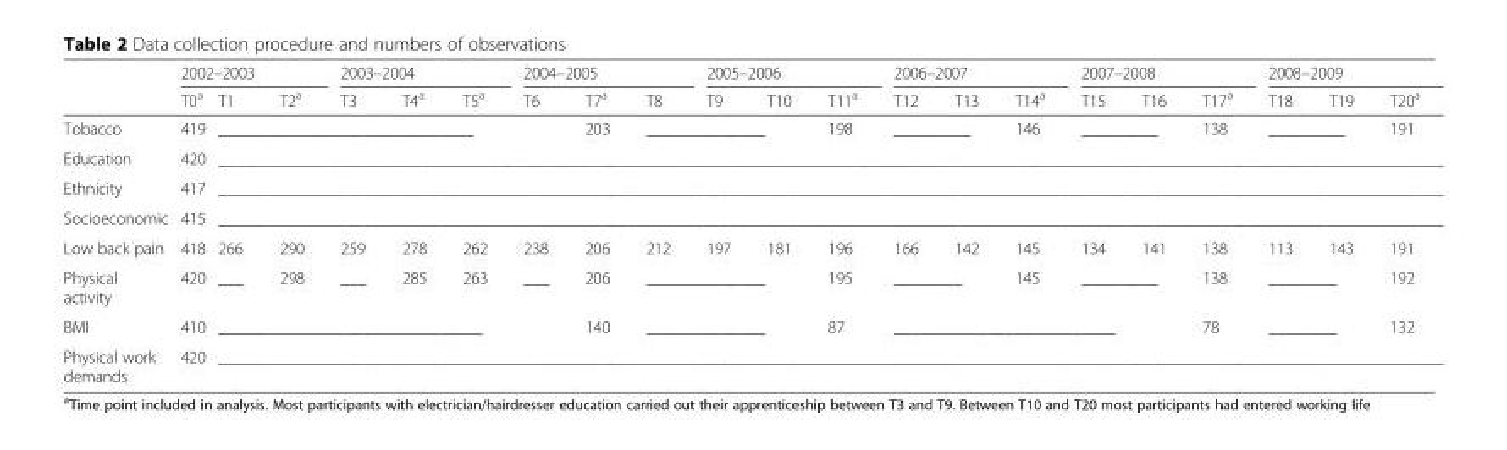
<table><thead><tr><td rowspan="2"></td><td colspan="3">2002–2003</td><td colspan="3">2003–2004</td><td colspan="3">2004–2005</td><td colspan="3">2005–2006</td><td colspan="3">2006–2007</td><td colspan="3">2007–2008</td><td colspan="3">2008–2009</td></tr><tr><td>T0<sup>a</sup></td><td>T1</td><td>T2<sup>a</sup></td><td>T3</td><td>T4<sup>a</sup></td><td>T5<sup>a</sup></td><td>T6</td><td>T7<sup>a</sup></td><td>T8</td><td>T9</td><td>T10</td><td>T11<sup>a</sup></td><td>T12</td><td>T13</td><td>T14<sup>a</sup></td><td>T15</td><td>T16</td><td>T17<sup>a</sup></td><td>T18</td><td>T19</td><td>T20<sup>a</sup></td></tr></thead><tbody><tr><td>Tobacco</td><td>419</td><td colspan="6">______________________________</td><td>203</td><td colspan="3">______________</td><td>198</td><td colspan="2">_________</td><td>146</td><td colspan="2">_________</td><td>138</td><td colspan="2">_________</td><td>191</td></tr><tr><td>Education</td><td>420</td><td colspan="20">________________________________________________________________________________________________________________________________________________</td></tr><tr><td>Ethnicity</td><td>417</td><td colspan="20">________________________________________________________________________________________________________________________________________________</td></tr><tr><td>Socioeconomic</td><td>415</td><td colspan="20">________________________________________________________________________________________________________________________________________________</td></tr><tr><td>Low back pain</td><td>418</td><td>266</td><td>290</td><td>259</td><td>278</td><td>262</td><td>238</td><td>206</td><td>212</td><td>197</td><td>181</td><td>196</td><td>166</td><td>142</td><td>145</td><td>134</td><td>141</td><td>138</td><td>113</td><td>143</td><td>191</td></tr><tr><td>Physical activity</td><td>420</td><td>___</td><td>298</td><td>___</td><td>285</td><td>263</td><td>___</td><td>206</td><td colspan="3">______________</td><td>195</td><td colspan="2">________</td><td>145</td><td colspan="2">_________</td><td>138</td><td colspan="2">________</td><td>192</td></tr><tr><td>BMI</td><td>410</td><td colspan="6">_______________________________</td><td>140</td><td colspan="3">______________</td><td>87</td><td colspan="5">__________________________</td><td>78</td><td colspan="2">________</td><td>132</td></tr><tr><td>Physical work demands</td><td>420</td><td colspan="20">________________________________________________________________________________________________________________________________________________</td></tr></tbody></table>